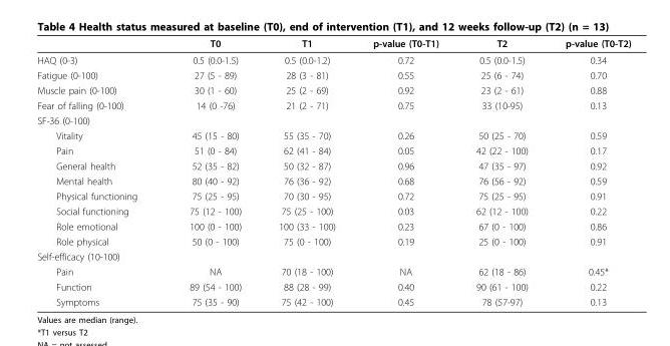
<table><thead><tr><td></td><td>T0</td><td>T1</td><td>p-value (T0-T1)</td><td>T2</td><td>p-value (T0-T2)</td></tr></thead><tbody><tr><td>HAQ (0-3)</td><td>0.5 (0.0-1.5)</td><td>0.5 (0.0-1.2)</td><td>0.72</td><td>0.5 (0.0-1.5)</td><td>0.34</td></tr><tr><td>Fatigue (0-100)</td><td>27 (5 - 89)</td><td>28 (3 - 81)</td><td>0.55</td><td>25 (6 - 74)</td><td>0.70</td></tr><tr><td>Muscle pain (0-100)</td><td>30 (1 - 60)</td><td>25 (2 - 69)</td><td>0.92</td><td>23 (2 - 61)</td><td>0.88</td></tr><tr><td>Fear of falling (0-100)</td><td>14 (0 -76)</td><td>21 (2 - 71)</td><td>0.75</td><td>33 (10-95)</td><td>0.13</td></tr><tr><td colspan="6">SF-36 (0-100)</td></tr><tr><td>Vitality</td><td>45 (15 - 80)</td><td>55 (35 - 70)</td><td>0.26</td><td>50 (25 - 70)</td><td>0.59</td></tr><tr><td>Pain</td><td>51 (0 - 84)</td><td>62 (41 - 84)</td><td>0.05</td><td>42 (22 - 100)</td><td>0.17</td></tr><tr><td>General health</td><td>52 (35 - 82)</td><td>50 (32 - 87)</td><td>0.96</td><td>47 (35 - 97)</td><td>0.92</td></tr><tr><td>Mental health</td><td>80 (40 - 92)</td><td>76 (36 - 92)</td><td>0.68</td><td>76 (56 - 92)</td><td>0.59</td></tr><tr><td>Physical functioning</td><td>75 (25 - 95)</td><td>70 (30 - 95)</td><td>0.72</td><td>75 (25 - 95)</td><td>0.91</td></tr><tr><td>Social functioning</td><td>75 (12 - 100)</td><td>75 (25 - 100)</td><td>0.03</td><td>62 (12 - 100)</td><td>0.22</td></tr><tr><td>Role emotional</td><td>100 (0 - 100)</td><td>100 (33 - 100)</td><td>0.23</td><td>67 (0 - 100)</td><td>0.86</td></tr><tr><td>Role physical</td><td>50 (0 - 100)</td><td>75 (0 - 100)</td><td>0.19</td><td>25 (0 - 100)</td><td>0.91</td></tr><tr><td colspan="6">Self-efficacy (10-100)</td></tr><tr><td>Pain</td><td>NA</td><td>70 (18 - 100)</td><td>NA</td><td>62 (18 - 86)</td><td>0.45*</td></tr><tr><td>Function</td><td>89 (54 - 100)</td><td>88 (28 - 99)</td><td>0.40</td><td>90 (61 - 100)</td><td>0.22</td></tr><tr><td>Symptoms</td><td>75 (35 - 90)</td><td>75 (42 - 100)</td><td>0.45</td><td>78 (57-97)</td><td>0.13</td></tr></tbody></table>